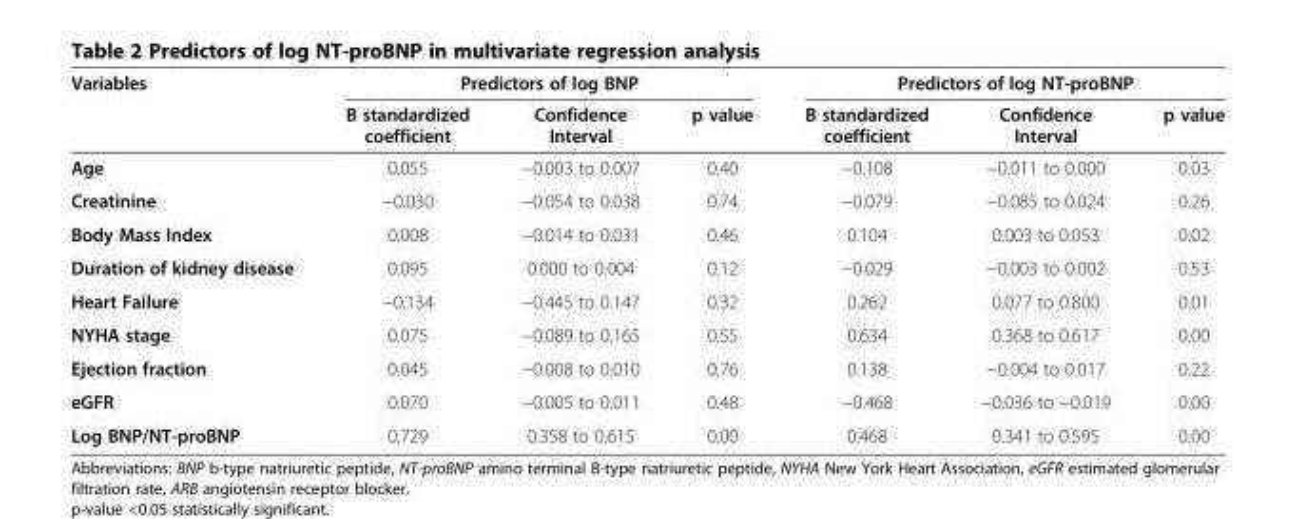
<table><thead><tr><td rowspan="2">Variables</td><td colspan="3">Predictors of log BNP</td><td colspan="3">Predictors of log NT-proBNP</td></tr><tr><td>B standardized coefficient</td><td>Confidence Interval</td><td>p value</td><td>B standardized coefficient</td><td>Confidence Interval</td><td>p value</td></tr></thead><tbody><tr><td>Age</td><td>0.055</td><td>−0.003 to 0.007</td><td>0.40</td><td>−0.108</td><td>−0.011 to 0.000</td><td>0.03</td></tr><tr><td>Creatinine</td><td>−0.030</td><td>−0.054 to 0.038</td><td>0.74</td><td>−0.079</td><td>−0.085 to 0.024</td><td>0.26</td></tr><tr><td>Body Mass Index</td><td>0.008</td><td>−0.014 to 0.031</td><td>0.46</td><td>0.104</td><td>0.003 to 0.053</td><td>0.02</td></tr><tr><td>Duration of kidney disease</td><td>0.095</td><td>0.000 to 0.004</td><td>0.12</td><td>−0.029</td><td>−0.003 to 0.002</td><td>0.53</td></tr><tr><td>Heart Failure</td><td>−0.134</td><td>−0.445 to 0.147</td><td>0.32</td><td>0.262</td><td>0.077 to 0.800</td><td>0.01</td></tr><tr><td>NYHA stage</td><td>0.075</td><td>−0.089 to 0.165</td><td>0.55</td><td>0.634</td><td>0.368 to 0.617</td><td>0.00</td></tr><tr><td>Ejection fraction</td><td>0.045</td><td>−0.008 to 0.010</td><td>0.76</td><td>0.138</td><td>−0.004 to 0.017</td><td>0.22</td></tr><tr><td>eGFR</td><td>0.070</td><td>−0.005 to 0.011</td><td>0.48</td><td>−0.468</td><td>−0.036 to −0.019</td><td>0.00</td></tr><tr><td>Log BNP/NT-proBNP</td><td>0.729</td><td>0.358 to 0.615</td><td>0.00</td><td>0.468</td><td>0.341 to 0.595</td><td>0.00</td></tr></tbody></table>